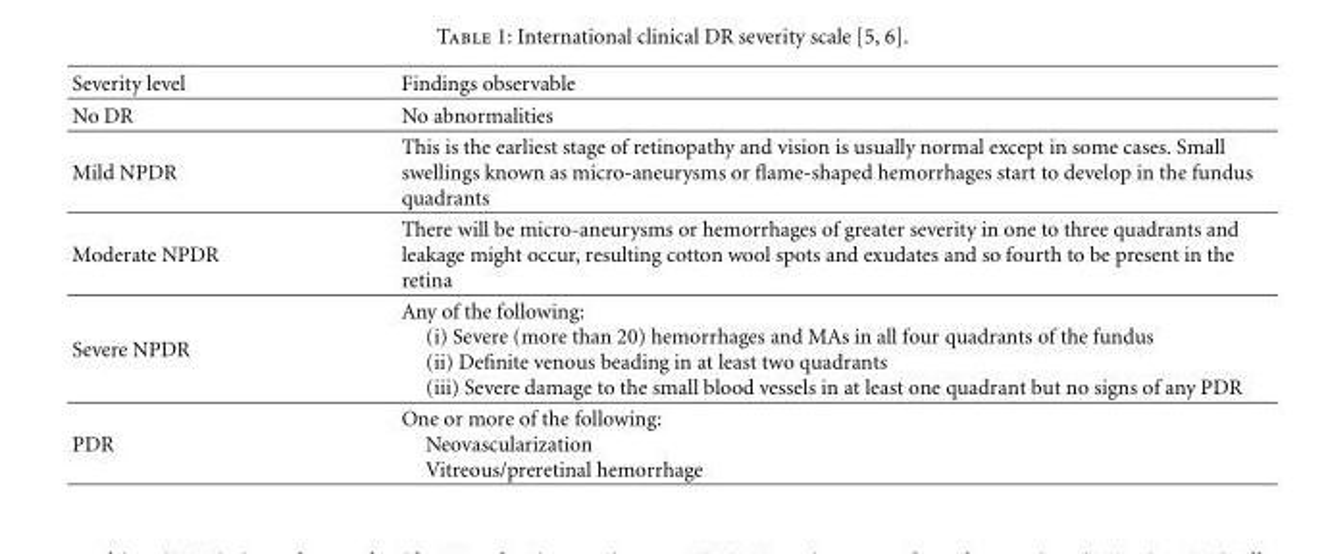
<table><thead><tr><td>Severity level</td><td>Findings observable</td></tr></thead><tbody><tr><td>No DR</td><td>No abnormalities</td></tr><tr><td>Mild NPDR</td><td>This is the earliest stage of retinopathy and vision is usually normal except in some cases. Small swellings known as micro-aneurysms or flame-shaped hemorrhages start to develop in the fundus quadrants</td></tr><tr><td>Moderate NPDR</td><td>There will be micro-aneurysms or hemorrhages of greater severity in one to three quadrants and leakage might occur, resulting cotton wool spots and exudates and so fourth to be present in the retina</td></tr><tr><td>Severe NPDR</td><td>Any of the following: (i) Severe (more than 20) hemorrhages and MAs in all four quadrants of the fundus (ii) Definite venous beading in at least two quadrants (iii) Severe damage to the small blood vessels in at least one quadrant but no signs of any PDR</td></tr><tr><td>PDR</td><td>One or more of the following: Neovascularization Vitreous/preretinal hemorrhage</td></tr></tbody></table>